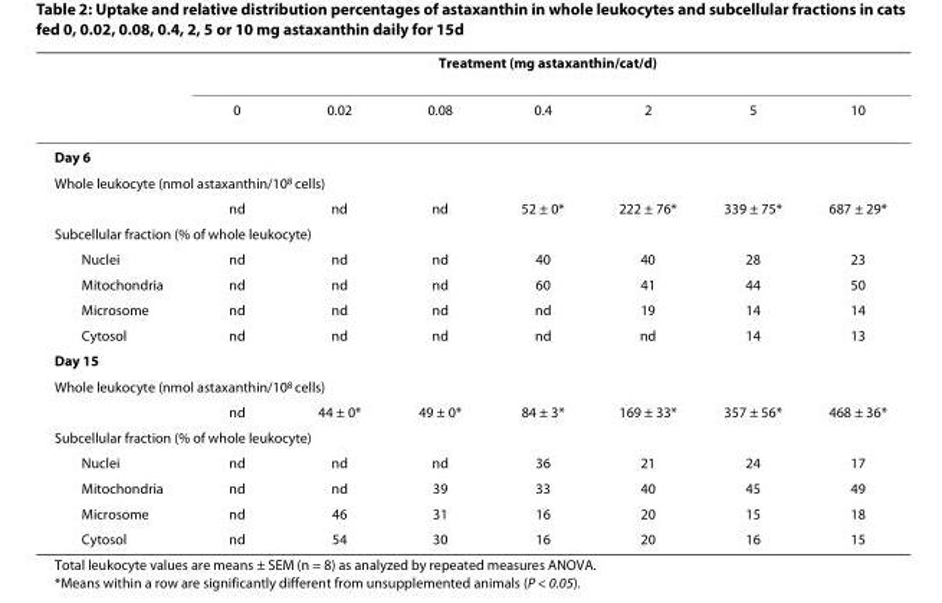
<table><thead><tr><td rowspan="2"></td><td colspan="7">Treatment (mg astaxanthin/cat/d)</td></tr><tr><td>0</td><td>0.02</td><td>0.08</td><td>0.4</td><td>2</td><td>5</td><td>10</td></tr></thead><tbody><tr><td colspan="8">Day 6</td></tr><tr><td colspan="8">Whole leukocyte (nmol astaxanthin/10<sup>8</sup> cells)</td></tr><tr><td></td><td>nd</td><td>nd</td><td>nd</td><td>52 ± 0*</td><td>222 ± 76*</td><td>339 ± 75*</td><td>687 ± 29*</td></tr><tr><td colspan="8">Subcellular fraction (% of whole leukocyte)</td></tr><tr><td>Nuclei</td><td>nd</td><td>nd</td><td>nd</td><td>40</td><td>40</td><td>28</td><td>23</td></tr><tr><td>Mitochondria</td><td>nd</td><td>nd</td><td>nd</td><td>60</td><td>41</td><td>44</td><td>50</td></tr><tr><td>Microsome</td><td>nd</td><td>nd</td><td>nd</td><td>nd</td><td>19</td><td>14</td><td>14</td></tr><tr><td>Cytosol</td><td>nd</td><td>nd</td><td>nd</td><td>nd</td><td>nd</td><td>14</td><td>13</td></tr><tr><td colspan="8">Day 15</td></tr><tr><td colspan="8">Whole leukocyte (nmol astaxanthin/10<sup>8</sup> cells)</td></tr><tr><td></td><td>nd</td><td>44 ± 0*</td><td>49 ± 0*</td><td>84 ± 3*</td><td>169 ± 33*</td><td>357 ± 56*</td><td>468 ± 36*</td></tr><tr><td colspan="8">Subcellular fraction (% of whole leukocyte)</td></tr><tr><td>Nuclei</td><td>nd</td><td>nd</td><td>nd</td><td>36</td><td>21</td><td>24</td><td>17</td></tr><tr><td>Mitochondria</td><td>nd</td><td>nd</td><td>39</td><td>33</td><td>40</td><td>45</td><td>49</td></tr><tr><td>Microsome</td><td>nd</td><td>46</td><td>31</td><td>16</td><td>20</td><td>15</td><td>18</td></tr><tr><td>Cytosol</td><td>nd</td><td>54</td><td>30</td><td>16</td><td>20</td><td>16</td><td>15</td></tr></tbody></table>